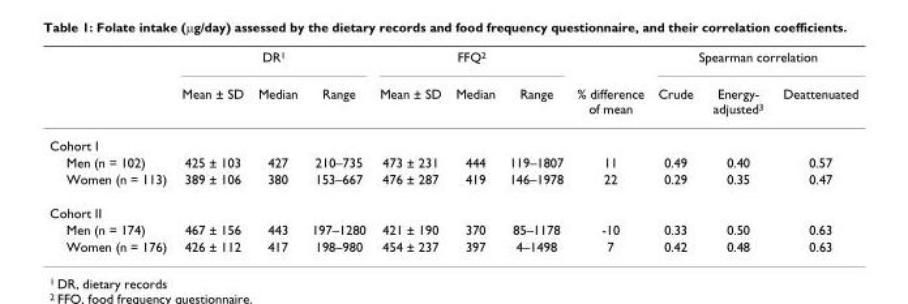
<table><thead><tr><td rowspan="2"></td><td colspan="3">DR<sup>1</sup></td><td colspan="3">FFQ<sup>2</sup></td><td rowspan="2">% difference of mean</td><td colspan="3">Spearman correlation</td></tr><tr><td>Mean ± SD</td><td>Median</td><td>Range</td><td>Mean ± SD</td><td>Median</td><td>Range</td><td>Crude</td><td>Energy- adjusted<sup>3</sup></td><td>Deattenuated</td></tr></thead><tbody><tr><td colspan="11">Cohort I</td></tr><tr><td>Men (n = 102)</td><td>425 ± 103</td><td>427</td><td>210–735</td><td>473 ± 231</td><td>444</td><td>119–1807</td><td>11</td><td>0.49</td><td>0.40</td><td>0.57</td></tr><tr><td>Women (n = 113)</td><td>389 ± 106</td><td>380</td><td>153–667</td><td>476 ± 287</td><td>419</td><td>146–1978</td><td>22</td><td>0.29</td><td>0.35</td><td>0.47</td></tr><tr><td colspan="11">Cohort II</td></tr><tr><td>Men (n = 174)</td><td>467 ± 156</td><td>443</td><td>197–1280</td><td>421 ± 190</td><td>370</td><td>85–1178</td><td>-10</td><td>0.33</td><td>0.50</td><td>0.63</td></tr><tr><td>Women (n = 176)</td><td>426 ± 112</td><td>417</td><td>198–980</td><td>454 ± 237</td><td>397</td><td>4–1498</td><td>7</td><td>0.42</td><td>0.48</td><td>0.63</td></tr></tbody></table>